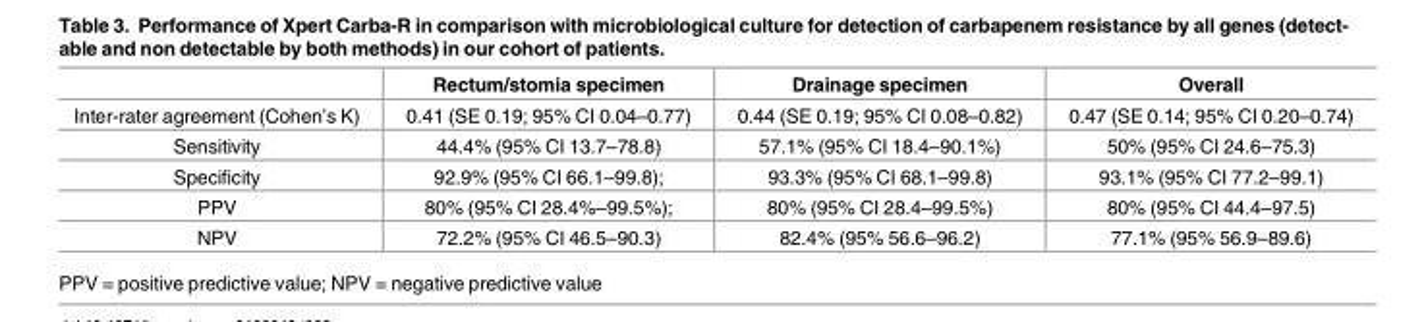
<table><thead><tr><td></td><td>Rectum/stomia specimen</td><td>Drainage specimen</td><td>Overall</td></tr></thead><tbody><tr><td>Inter-rater agreement (Cohen’s K)</td><td>0.41 (SE 0.19; 95% CI 0.04–0.77)</td><td>0.44 (SE 0.19; 95% CI 0.08–0.82)</td><td>0.47 (SE 0.14; 95% CI 0.20–0.74)</td></tr><tr><td>Sensitivity</td><td>44.4% (95% CI 13.7–78.8)</td><td>57.1% (95% CI 18.4–90.1%)</td><td>50% (95% CI 24.6–75.3)</td></tr><tr><td>Specificity</td><td>92.9% (95% CI 66.1–99.8);</td><td>93.3% (95% CI 68.1–99.8)</td><td>93.1% (95% CI 77.2–99.1)</td></tr><tr><td>PPV</td><td>80% (95% CI 28.4%–99.5%);</td><td>80% (95% CI 28.4–99.5%)</td><td>80% (95% CI 44.4–97.5)</td></tr><tr><td>NPV</td><td>72.2% (95% CI 46.5–90.3)</td><td>82.4% (95% 56.6–96.2)</td><td>77.1% (95% 56.9–89.6)</td></tr></tbody></table>